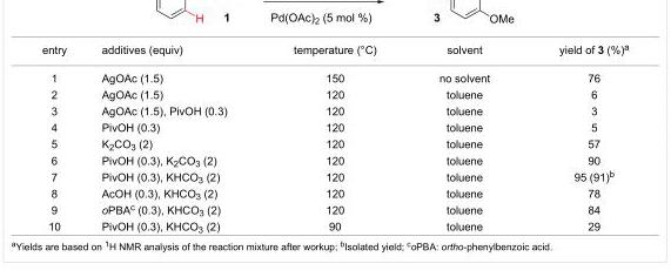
<table><tbody><tr><td>entry</td><td>additives (equiv)</td><td>temperature (°C)</td><td>solvent</td><td>yield of 3 (%)<sup>a</sup></td></tr><tr><td>1</td><td>AgOAc (1.5)</td><td>150</td><td>no solvent</td><td>76</td></tr><tr><td>2</td><td>AgOAc (1.5)</td><td>120</td><td>toluene</td><td>6</td></tr><tr><td>3</td><td>AgOAc (1.5), PivOH (0.3)</td><td>120</td><td>toluene</td><td>3</td></tr><tr><td>4</td><td>PivOH (0.3)</td><td>120</td><td>toluene</td><td>5</td></tr><tr><td>5</td><td>K<sub>2</sub>CO<sub>3</sub> (2)</td><td>120</td><td>toluene</td><td>57</td></tr><tr><td>6</td><td>PivOH (0.3), K<sub>2</sub>CO<sub>3</sub> (2)</td><td>120</td><td>toluene</td><td>90</td></tr><tr><td>7</td><td>PivOH (0.3), KHCO<sub>3</sub> (2)</td><td>120</td><td>toluene</td><td>95 (91)<sup>b</sup></td></tr><tr><td>8</td><td>AcOH (0.3), KHCO<sub>3</sub> (2)</td><td>120</td><td>toluene</td><td>78</td></tr><tr><td>9</td><td>oPBA<sup>c</sup> (0.3), KHCO<sub>3</sub> (2)</td><td>120</td><td>toluene</td><td>84</td></tr><tr><td>10</td><td>PivOH (0.3), KHCO<sub>3</sub> (2)</td><td>90</td><td>toluene</td><td>29</td></tr></tbody></table>